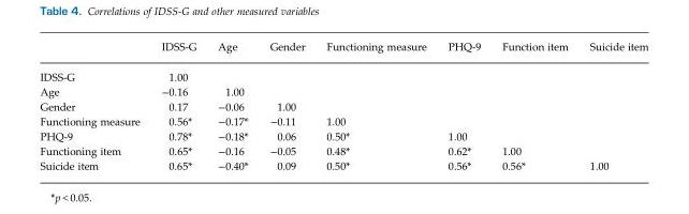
<table><thead><tr><td></td><td>IDSS-G</td><td>Age</td><td>Gender</td><td>Functioning measure</td><td>PHQ-9</td><td>Function item</td><td>Suicide item</td></tr></thead><tbody><tr><td>IDSS-G</td><td>1.00</td><td></td><td></td><td></td><td></td><td></td><td></td></tr><tr><td>Age</td><td>−0.16</td><td>1.00</td><td></td><td></td><td></td><td></td><td></td></tr><tr><td>Gender</td><td>0.17</td><td>−0.06</td><td>1.00</td><td></td><td></td><td></td><td></td></tr><tr><td>Functioning measure</td><td>0.56*</td><td>−0.17*</td><td>−0.11</td><td>1.00</td><td></td><td></td><td></td></tr><tr><td>PHQ-9</td><td>0.78*</td><td>−0.18*</td><td>0.06</td><td>0.50*</td><td>1.00</td><td></td><td></td></tr><tr><td>Functioning item</td><td>0.65*</td><td>−0.16</td><td>−0.05</td><td>0.48*</td><td>0.62*</td><td>1.00</td><td></td></tr><tr><td>Suicide item</td><td>0.65*</td><td>−0.40*</td><td>0.09</td><td>0.50*</td><td>0.56*</td><td>0.56*</td><td>1.00</td></tr></tbody></table>